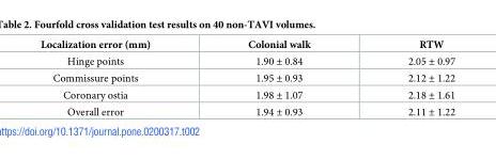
<table><thead><tr><td>Localization error (mm)</td><td>Colonial walk</td><td>RTW</td></tr></thead><tbody><tr><td>Hinge points</td><td>1.90 ± 0.84</td><td>2.05 ± 0.97</td></tr><tr><td>Commissure points</td><td>1.95 ± 0.93</td><td>2.12 ± 1.22</td></tr><tr><td>Coronary ostia</td><td>1.98 ± 1.07</td><td>2.18 ± 1.61</td></tr><tr><td>Overall error</td><td>1.94 ± 0.93</td><td>2.11 ± 1.22</td></tr></tbody></table>